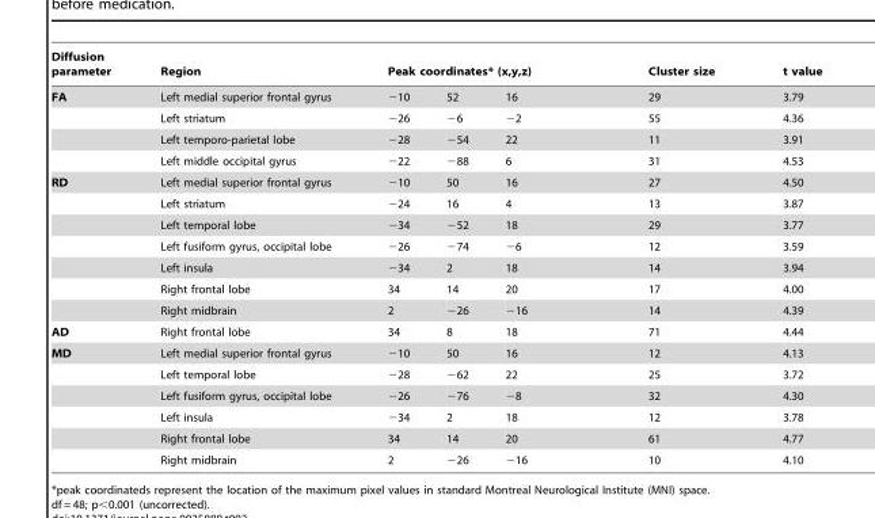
<table><thead><tr><td rowspan="2">Diffusion parameter FA</td><td rowspan="2">Region Left medial superior frontal gyrus</td><td colspan="3">Peak coordinates* (x,y,z)</td><td rowspan="2">Cluster size 29</td><td rowspan="2">t value 3.79</td></tr><tr><td>−10</td><td>52</td><td>16</td></tr></thead><tbody><tr><td></td><td>Left striatum</td><td>−26</td><td>−6</td><td>−2</td><td>55</td><td>4.36</td></tr><tr><td></td><td>Left temporo-parietal lobe</td><td>−28</td><td>−54</td><td>22</td><td>11</td><td>3.91</td></tr><tr><td></td><td>Left middle occipital gyrus</td><td>−22</td><td>−88</td><td>6</td><td>31</td><td>4.53</td></tr><tr><td rowspan="7">RD</td><td>Left medial superior frontal gyrus</td><td>−10</td><td>50</td><td>16</td><td>27</td><td>4.50</td></tr><tr><td>Left striatum</td><td>−24</td><td>16</td><td>4</td><td>13</td><td>3.87</td></tr><tr><td>Left temporal lobe</td><td>−34</td><td>−52</td><td>18</td><td>29</td><td>3.77</td></tr><tr><td>Left fusiform gyrus, occipital lobe</td><td>−26</td><td>−74</td><td>−6</td><td>12</td><td>3.59</td></tr><tr><td>Left insula</td><td>−34</td><td>2</td><td>18</td><td>14</td><td>3.94</td></tr><tr><td>Right frontal lobe</td><td>34</td><td>14</td><td>20</td><td>17</td><td>4.00</td></tr><tr><td>Right midbrain</td><td>2</td><td>−26</td><td>−16</td><td>14</td><td>4.39</td></tr><tr><td>AD</td><td>Right frontal lobe</td><td>34</td><td>8</td><td>18</td><td>71</td><td>4.44</td></tr><tr><td rowspan="6">MD</td><td>Left medial superior frontal gyrus</td><td>−10</td><td>50</td><td>16</td><td>12</td><td>4.13</td></tr><tr><td>Left temporal lobe</td><td>−28</td><td>−62</td><td>22</td><td>25</td><td>3.72</td></tr><tr><td>Left fusiform gyrus, occipital lobe</td><td>−26</td><td>−76</td><td>−8</td><td>32</td><td>4.30</td></tr><tr><td>Left insula</td><td>−34</td><td>2</td><td>18</td><td>12</td><td>3.78</td></tr><tr><td>Right frontal lobe</td><td>34</td><td>14</td><td>20</td><td>61</td><td>4.77</td></tr><tr><td>Right midbrain</td><td>2</td><td>−26</td><td>−16</td><td>10</td><td>4.10</td></tr></tbody></table>